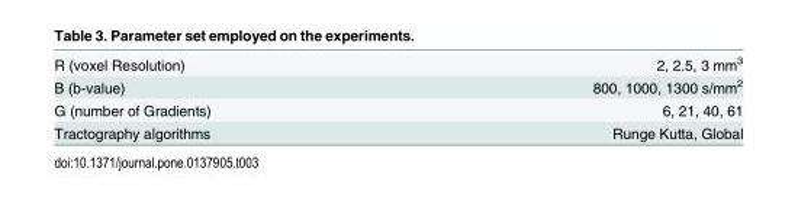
<table><tbody><tr><td>R (voxel Resolution)</td><td>2, 2.5, 3 mm<sup>3</sup></td></tr><tr><td>B (b-value)</td><td>800, 1000, 1300 s/mm<sup>2</sup></td></tr><tr><td>G (number of Gradients)</td><td>6, 21, 40, 61</td></tr><tr><td>Tractography algorithms</td><td>Runge Kutta, Global</td></tr></tbody></table>